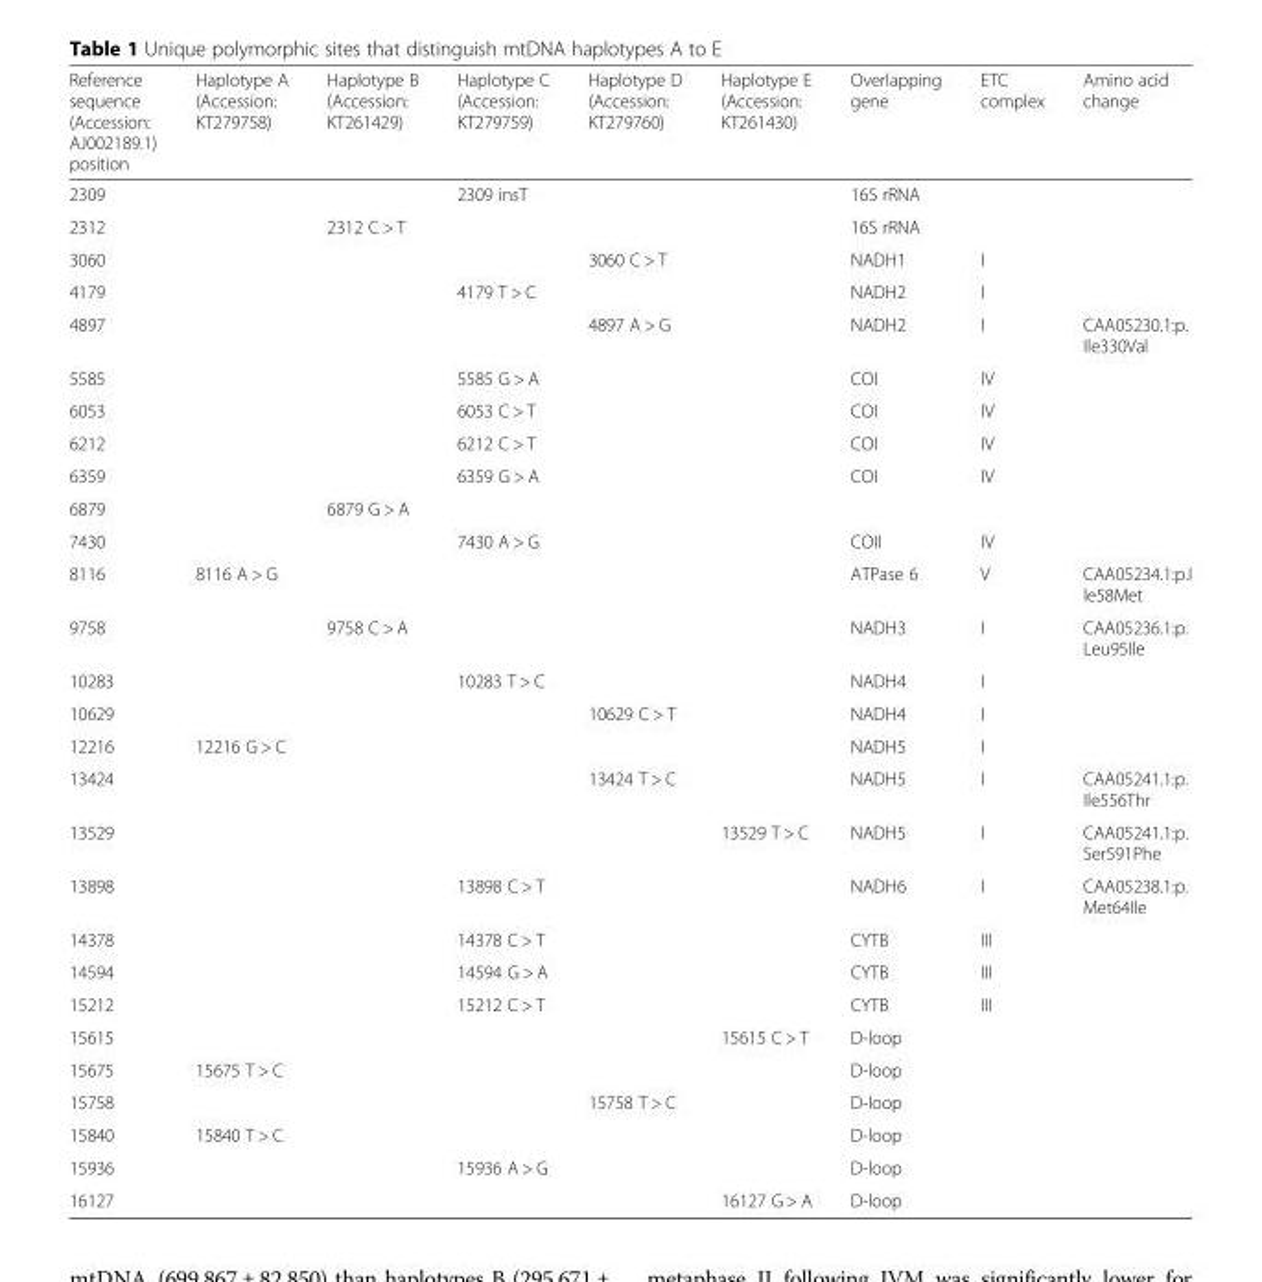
<table><thead><tr><td>Reference sequence (Accession: AJ002189.1) position</td><td>Haplotype A (Accession: KT279758)</td><td>Haplotype B (Accession: KT261429)</td><td>Haplotype C (Accession: KT279759)</td><td>Haplotype D (Accession: KT279760)</td><td>Haplotype E (Accession: KT261430)</td><td>Overlapping gene</td><td>ETC complex</td><td>Amino acid change</td></tr></thead><tbody><tr><td>2309</td><td></td><td></td><td>2309 insT</td><td></td><td></td><td>16S rRNA</td><td></td><td></td></tr><tr><td>2312</td><td></td><td>2312 C &gt; T</td><td></td><td></td><td></td><td>16S rRNA</td><td></td><td></td></tr><tr><td>3060</td><td></td><td></td><td></td><td>3060 C &gt; T</td><td></td><td>NADH1</td><td>I</td><td></td></tr><tr><td>4179</td><td></td><td></td><td>4179 T &gt; C</td><td></td><td></td><td>NADH2</td><td>I</td><td></td></tr><tr><td>4897</td><td></td><td></td><td></td><td>4897 A &gt; G</td><td></td><td>NADH2</td><td>I</td><td>CAA05230.1:p. Ile330Val</td></tr><tr><td>5585</td><td></td><td></td><td>5585 G &gt; A</td><td></td><td></td><td>COI</td><td>IV</td><td></td></tr><tr><td>6053</td><td></td><td></td><td>6053 C &gt; T</td><td></td><td></td><td>COI</td><td>IV</td><td></td></tr><tr><td>6212</td><td></td><td></td><td>6212 C &gt; T</td><td></td><td></td><td>COI</td><td>IV</td><td></td></tr><tr><td>6359</td><td></td><td></td><td>6359 G &gt; A</td><td></td><td></td><td>COI</td><td>IV</td><td></td></tr><tr><td>6879</td><td></td><td>6879 G &gt; A</td><td></td><td></td><td></td><td></td><td></td><td></td></tr><tr><td>7430</td><td></td><td></td><td>7430 A &gt; G</td><td></td><td></td><td>COII</td><td>IV</td><td></td></tr><tr><td>8116</td><td>8116 A &gt; G</td><td></td><td></td><td></td><td></td><td>ATPase 6</td><td>V</td><td>CAA05234.1:p.I le58Met</td></tr><tr><td>9758</td><td></td><td>9758 C &gt; A</td><td></td><td></td><td></td><td>NADH3</td><td>I</td><td>CAA05236.1:p. Leu95Ile</td></tr><tr><td>10283</td><td></td><td></td><td>10283 T &gt; C</td><td></td><td></td><td>NADH4</td><td>I</td><td></td></tr><tr><td>10629</td><td></td><td></td><td></td><td>10629 C &gt; T</td><td></td><td>NADH4</td><td>I</td><td></td></tr><tr><td>12216</td><td>12216 G &gt; C</td><td></td><td></td><td></td><td></td><td>NADH5</td><td>I</td><td></td></tr><tr><td>13424</td><td></td><td></td><td></td><td>13424 T &gt; C</td><td></td><td>NADH5</td><td>I</td><td>CAA05241.1:p. Ile556Thr</td></tr><tr><td>13529</td><td></td><td></td><td></td><td></td><td>13529 T &gt; C</td><td>NADH5</td><td>I</td><td>CAA05241.1:p. Ser591Phe</td></tr><tr><td>13898</td><td></td><td></td><td>13898 C &gt; T</td><td></td><td></td><td>NADH6</td><td>I</td><td>CAA05238.1:p. Met64Ile</td></tr><tr><td>14378</td><td></td><td></td><td>14378 C &gt; T</td><td></td><td></td><td>CYTB</td><td>III</td><td></td></tr><tr><td>14594</td><td></td><td></td><td>14594 G &gt; A</td><td></td><td></td><td>CYTB</td><td>III</td><td></td></tr><tr><td>15212</td><td></td><td></td><td>15212 C &gt; T</td><td></td><td></td><td>CYTB</td><td>III</td><td></td></tr><tr><td>15615</td><td></td><td></td><td></td><td></td><td>15615 C &gt; T</td><td>D-loop</td><td></td><td></td></tr><tr><td>15675</td><td>15675 T &gt; C</td><td></td><td></td><td></td><td></td><td>D-loop</td><td></td><td></td></tr><tr><td>15758</td><td></td><td></td><td></td><td>15758 T &gt; C</td><td></td><td>D-loop</td><td></td><td></td></tr><tr><td>15840</td><td>15840 T &gt; C</td><td></td><td></td><td></td><td></td><td>D-loop</td><td></td><td></td></tr><tr><td>15936</td><td></td><td></td><td>15936 A &gt; G</td><td></td><td></td><td>D-loop</td><td></td><td></td></tr><tr><td>16127</td><td></td><td></td><td></td><td></td><td>16127 G &gt; A</td><td>D-loop</td><td></td><td></td></tr></tbody></table>